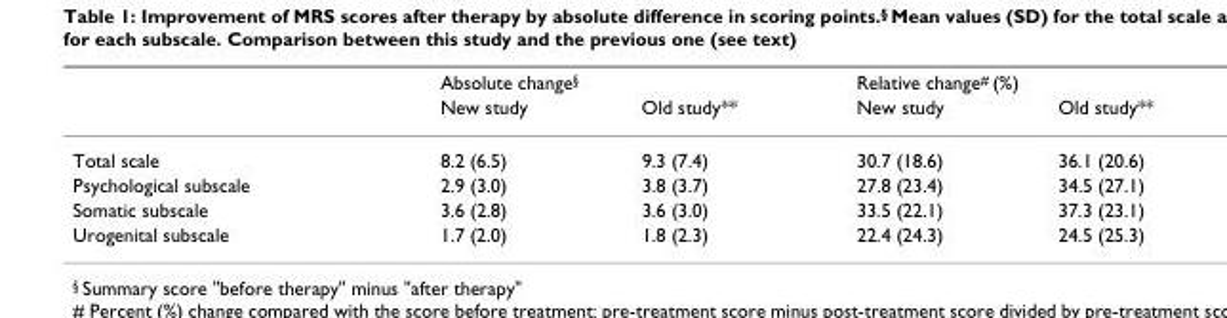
<table><thead><tr><td rowspan="2"></td><td colspan="2">Absolute change<sup>§</sup></td><td colspan="2">Relative change<sup>#</sup> (%)</td></tr><tr><td>New study</td><td>Old study**</td><td>New study</td><td>Old study**</td></tr></thead><tbody><tr><td>Total scale</td><td>8.2 (6.5)</td><td>9.3 (7.4)</td><td>30.7 (18.6)</td><td>36.1 (20.6)</td></tr><tr><td>Psychological subscale</td><td>2.9 (3.0)</td><td>3.8 (3.7)</td><td>27.8 (23.4)</td><td>34.5 (27.1)</td></tr><tr><td>Somatic subscale</td><td>3.6 (2.8)</td><td>3.6 (3.0)</td><td>33.5 (22.1)</td><td>37.3 (23.1)</td></tr><tr><td>Urogenital subscale</td><td>1.7 (2.0)</td><td>1.8 (2.3)</td><td>22.4 (24.3)</td><td>24.5 (25.3)</td></tr></tbody></table>